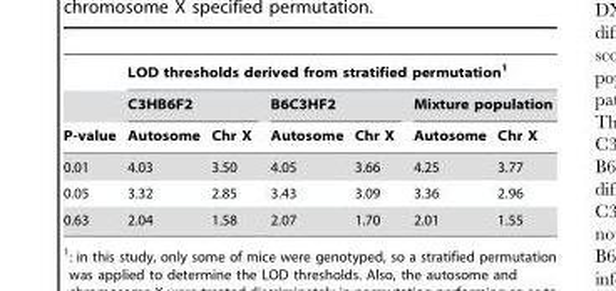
<table><thead><tr><td rowspan="3">P-value</td><td colspan="6">LOD thresholds derived from stratified permutation<sup>1</sup></td></tr><tr><td colspan="2">C3HB6F2</td><td colspan="2">B6C3HF2</td><td colspan="2">Mixture population</td></tr><tr><td>Autosome</td><td>Chr X</td><td>Autosome</td><td>Chr X</td><td>Autosome</td><td>Chr X</td></tr></thead><tbody><tr><td>0.01</td><td>4.03</td><td>3.50</td><td>4.05</td><td>3.66</td><td>4.25</td><td>3.77</td></tr><tr><td>0.05</td><td>3.32</td><td>2.85</td><td>3.43</td><td>3.09</td><td>3.36</td><td>2.96</td></tr><tr><td>0.63</td><td>2.04</td><td>1.58</td><td>2.07</td><td>1.70</td><td>2.01</td><td>1.55</td></tr></tbody></table>